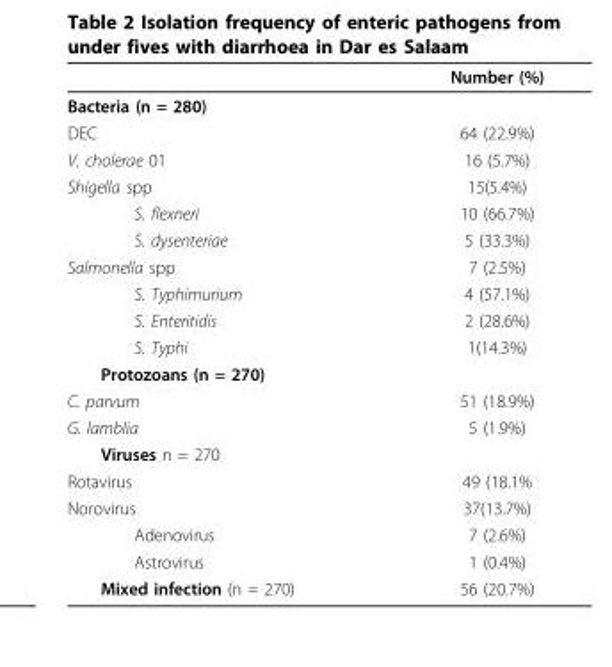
<table><thead><tr><td></td><td>Number (%)</td></tr></thead><tbody><tr><td colspan="2">Bacteria (n = 280)</td></tr><tr><td>DEC</td><td>64 (22.9%)</td></tr><tr><td>V. cholerae 01</td><td>16 (5.7%)</td></tr><tr><td>Shigella spp</td><td>15(5.4%)</td></tr><tr><td>S. flexneri</td><td>10 (66.7%)</td></tr><tr><td>S. dysenteriae</td><td>5 (33.3%)</td></tr><tr><td>Salmonella spp</td><td>7 (2.5%)</td></tr><tr><td>S. Typhimurium</td><td>4 (57.1%)</td></tr><tr><td>S. Enteritidis</td><td>2 (28.6%)</td></tr><tr><td>S. Typhi</td><td>1(14.3%)</td></tr><tr><td colspan="2">Protozoans (n = 270)</td></tr><tr><td>C. parvum</td><td>51 (18.9%)</td></tr><tr><td>G. lamblia</td><td>5 (1.9%)</td></tr><tr><td colspan="2">Viruses n = 270</td></tr><tr><td>Rotavirus</td><td>49 (18.1%</td></tr><tr><td>Norovirus</td><td>37(13.7%)</td></tr><tr><td>Adenovirus</td><td>7 (2.6%)</td></tr><tr><td>Astrovirus</td><td>1 (0.4%)</td></tr><tr><td>Mixed infection (n = 270)</td><td>56 (20.7%)</td></tr></tbody></table>